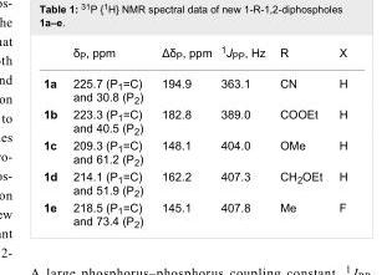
<table><thead><tr><td></td><td>δ<sub>P</sub>, ppm</td><td>Δδ<sub>P</sub>, ppm</td><td><sup>1</sup>J<sub>PР</sub>, Hz</td><td>R</td><td>X</td></tr></thead><tbody><tr><td>1a</td><td>225.7 (P<sub>1</sub>=C) and 30.8 (P<sub>2</sub>)</td><td>194.9</td><td>363.1</td><td>CN</td><td>H</td></tr><tr><td>1b</td><td>223.3 (P<sub>1</sub>=C) and 40.5 (P<sub>2</sub>)</td><td>182.8</td><td>389.0</td><td>COOEt</td><td>H</td></tr><tr><td>1c</td><td>209.3 (P<sub>1</sub>=C) and 61.2 (P<sub>2</sub>)</td><td>148.1</td><td>404.0</td><td>OMe</td><td>H</td></tr><tr><td>1d</td><td>214.1 (P<sub>1</sub>=C) and 51.9 (P<sub>2</sub>)</td><td>162.2</td><td>407.3</td><td>CH<sub>2</sub>OEt</td><td>H</td></tr><tr><td>1e</td><td>218.5 (P<sub>1</sub>=C) and 73.4 (P<sub>2</sub>)</td><td>145.1</td><td>407.8</td><td>Me</td><td>F</td></tr></tbody></table>